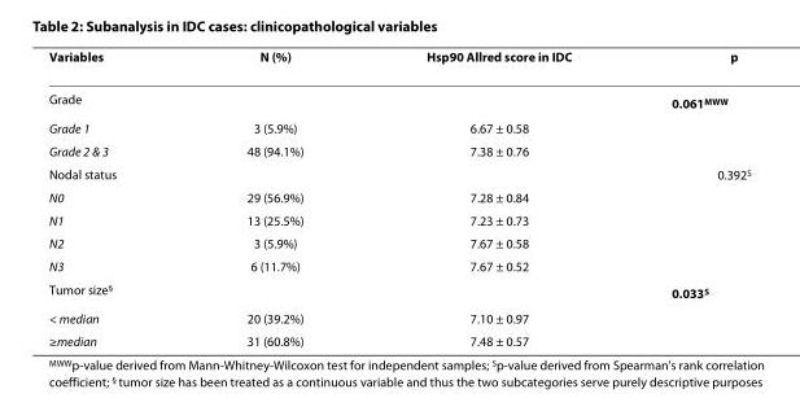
<table><thead><tr><td>Variables</td><td>N (%)</td><td>Hsp90 Allred score in IDC</td><td>p</td></tr></thead><tbody><tr><td>Grade</td><td></td><td></td><td>0.061<sup>MWW</sup></td></tr><tr><td>Grade 1</td><td>3 (5.9%)</td><td>6.67 ± 0.58</td><td></td></tr><tr><td>Grade 2 &amp; 3</td><td>48 (94.1%)</td><td>7.38 ± 0.76</td><td></td></tr><tr><td>Nodal status</td><td></td><td></td><td>0.392<sup>S</sup></td></tr><tr><td>N0</td><td>29 (56.9%)</td><td>7.28 ± 0.84</td><td></td></tr><tr><td>N1</td><td>13 (25.5%)</td><td>7.23 ± 0.73</td><td></td></tr><tr><td>N2</td><td>3 (5.9%)</td><td>7.67 ± 0.58</td><td></td></tr><tr><td>N3</td><td>6 (11.7%)</td><td>7.67 ± 0.52</td><td></td></tr><tr><td>Tumor size<sup>§</sup></td><td></td><td></td><td>0.033<sup>S</sup></td></tr><tr><td>&lt; median</td><td>20 (39.2%)</td><td>7.10 ± 0.97</td><td></td></tr><tr><td>≥median</td><td>31 (60.8%)</td><td>7.48 ± 0.57</td><td></td></tr></tbody></table>